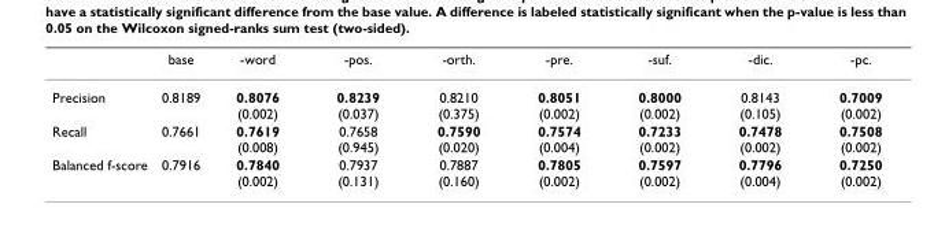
<table><thead><tr><td></td><td>base</td><td>-word</td><td>-pos.</td><td>-orth.</td><td>-pre.</td><td>-suf.</td><td>-dic.</td><td>-pc.</td></tr></thead><tbody><tr><td>Precision</td><td>0.8189</td><td>0.8076 (0.002)</td><td>0.8239 (0.037)</td><td>0.8210 (0.375)</td><td>0.8051 (0.002)</td><td>0.8000 (0.002)</td><td>0.8143 (0.105)</td><td>0.7009 (0.002)</td></tr><tr><td>Recall</td><td>0.7661</td><td>0.7619 (0.008)</td><td>0.7658 (0.945)</td><td>0.7590 (0.020)</td><td>0.7574 (0.004)</td><td>0.7233 (0.002)</td><td>0.7478 (0.002)</td><td>0.7508 (0.002)</td></tr><tr><td>Balanced f-score</td><td>0.7916</td><td>0.7840 (0.002)</td><td>0.7937 (0.131)</td><td>0.7887 (0.160)</td><td>0.7805 (0.002)</td><td>0.7597 (0.002)</td><td>0.7796 (0.004)</td><td>0.7250 (0.002)</td></tr></tbody></table>